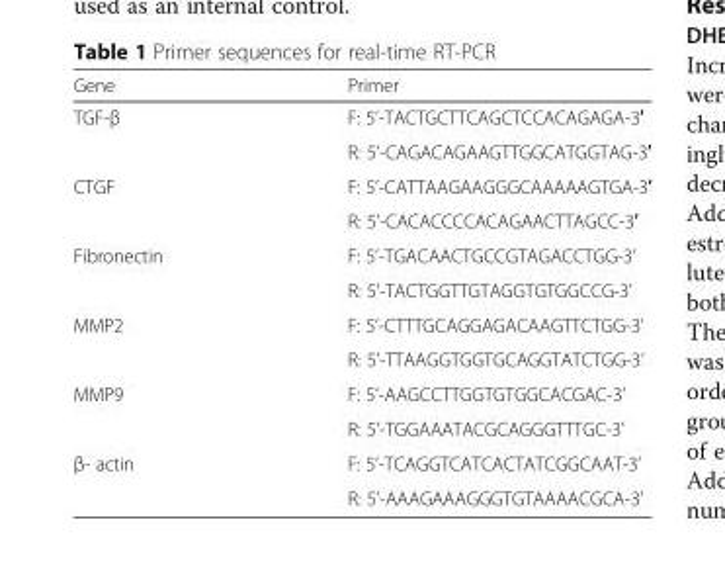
<table><thead><tr><td>Gene</td><td>Primer</td></tr></thead><tbody><tr><td rowspan="2">TGF-β</td><td>F: 5’-TACTGCTTCAGCTCCACAGAGA-3′</td></tr><tr><td>R: 5’-CAGACAGAAGTTGGCATGGTAG-3′</td></tr><tr><td rowspan="2">CTGF</td><td>F: 5’-CATTAAGAAGGGCAAAAAGTGA-3′</td></tr><tr><td>R: 5’-CACACCCCACAGAACTTAGCC-3′</td></tr><tr><td rowspan="2">Fibronectin</td><td>F: 5’-TGACAACTGCCGTAGACCTGG-3’</td></tr><tr><td>R: 5’-TACTGGTTGTAGGTGTGGCCG-3’</td></tr><tr><td rowspan="2">MMP2</td><td>F: 5’-CTTTGCAGGAGACAAGTTCTGG-3’</td></tr><tr><td>R: 5’-TTAAGGTGGTGCAGGTATCTGG-3’</td></tr><tr><td rowspan="2">MMP9</td><td>F: 5’-AAGCCTTGGTGTGGCACGAC-3’</td></tr><tr><td>R: 5’-TGGAAATACGCAGGGTTTGC-3’</td></tr><tr><td rowspan="2">β- actin</td><td>F: 5’-TCAGGTCATCACTATCGGCAAT-3’</td></tr><tr><td>R: 5’-AAAGAAAGGGTGTAAAACGCA-3’</td></tr></tbody></table>